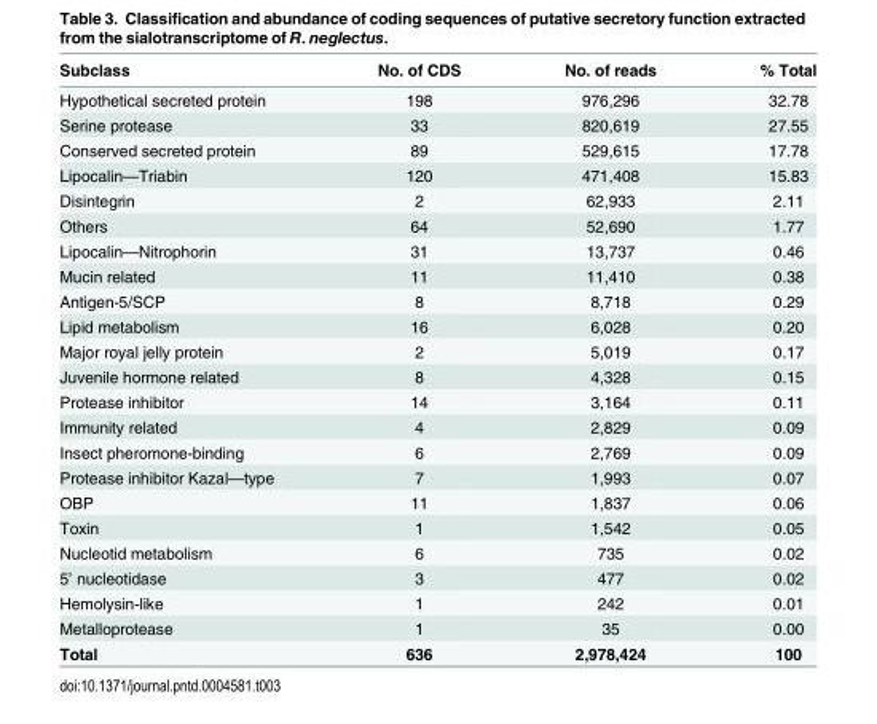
<table><thead><tr><td>Subclass</td><td>No. of CDS</td><td>No. of reads</td><td>% Total</td></tr></thead><tbody><tr><td>Hypothetical secreted protein</td><td>198</td><td>976,296</td><td>32.78</td></tr><tr><td>Serine protease</td><td>33</td><td>820,619</td><td>27.55</td></tr><tr><td>Conserved secreted protein</td><td>89</td><td>529,615</td><td>17.78</td></tr><tr><td>Lipocalin—Triabin</td><td>120</td><td>471,408</td><td>15.83</td></tr><tr><td>Disintegrin</td><td>2</td><td>62,933</td><td>2.11</td></tr><tr><td>Others</td><td>64</td><td>52,690</td><td>1.77</td></tr><tr><td>Lipocalin—Nitrophorin</td><td>31</td><td>13,737</td><td>0.46</td></tr><tr><td>Mucin related</td><td>11</td><td>11,410</td><td>0.38</td></tr><tr><td>Antigen-5/SCP</td><td>8</td><td>8,718</td><td>0.29</td></tr><tr><td>Lipid metabolism</td><td>16</td><td>6,028</td><td>0.20</td></tr><tr><td>Major royal jelly protein</td><td>2</td><td>5,019</td><td>0.17</td></tr><tr><td>Juvenile hormone related</td><td>8</td><td>4,328</td><td>0.15</td></tr><tr><td>Protease inhibitor</td><td>14</td><td>3,164</td><td>0.11</td></tr><tr><td>Immunity related</td><td>4</td><td>2,829</td><td>0.09</td></tr><tr><td>Insect pheromone-binding</td><td>6</td><td>2,769</td><td>0.09</td></tr><tr><td>Protease inhibitor Kazal—type</td><td>7</td><td>1,993</td><td>0.07</td></tr><tr><td>OBP</td><td>11</td><td>1,837</td><td>0.06</td></tr><tr><td>Toxin</td><td>1</td><td>1,542</td><td>0.05</td></tr><tr><td>Nucleotid metabolism</td><td>6</td><td>735</td><td>0.02</td></tr><tr><td>5’ nucleotidase</td><td>3</td><td>477</td><td>0.02</td></tr><tr><td>Hemolysin-like</td><td>1</td><td>242</td><td>0.01</td></tr><tr><td>Metalloprotease</td><td>1</td><td>35</td><td>0.00</td></tr><tr><td>Total</td><td>636</td><td>2,978,424</td><td>100</td></tr></tbody></table>